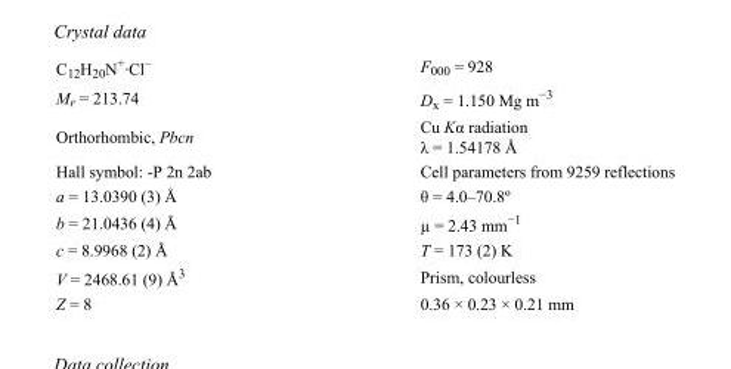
<table><tbody><tr><td>C<sub>12</sub>H<sub>20</sub>N<sup>+</sup>·Cl<sup>–</sup></td><td>F<sub>000</sub> = 928</td></tr><tr><td>M<sub>r</sub> = 213.74</td><td>D<sub>x</sub> = 1.150 Mg m<sup>−3</sup></td></tr><tr><td>Orthorhombic, Pbcn</td><td>Cu Kα radiation λ = 1.54178 Å</td></tr><tr><td>Hall symbol: -P 2n 2ab</td><td>Cell parameters from 9259 reflections</td></tr><tr><td>a = 13.0390 (3) Å</td><td>θ = 4.0–70.8º</td></tr><tr><td>b = 21.0436 (4) Å</td><td>µ = 2.43 mm<sup>−1</sup></td></tr><tr><td>c = 8.9968 (2) Å</td><td>T = 173 (2) K</td></tr><tr><td>V = 2468.61 (9) Å<sup>3</sup></td><td>Prism, colourless</td></tr><tr><td>Z = 8</td><td>0.36 × 0.23 × 0.21 mm</td></tr></tbody></table>